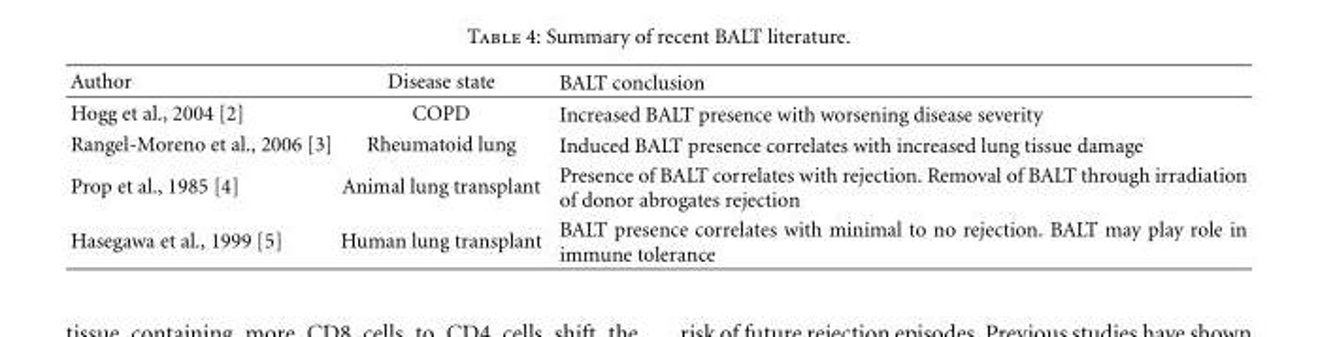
<table><thead><tr><td>Author</td><td>Disease state</td><td>BALT conclusion</td></tr></thead><tbody><tr><td>Hogg et al., 2004 [2]</td><td>COPD</td><td>Increased BALT presence with worsening disease severity</td></tr><tr><td>Rangel-Moreno et al., 2006 [3]</td><td>Rheumatoid lung</td><td>Induced BALT presence correlates with increased lung tissue damage</td></tr><tr><td>Prop et al., 1985 [4]</td><td>Animal lung transplant</td><td>Presence of BALT correlates with rejection. Removal of BALT through irradiation of donor abrogates rejection</td></tr><tr><td>Hasegawa et al., 1999 [5]</td><td>Human lung transplant</td><td>BALT presence correlates with minimal to no rejection. BALT may play role in immune tolerance</td></tr></tbody></table>